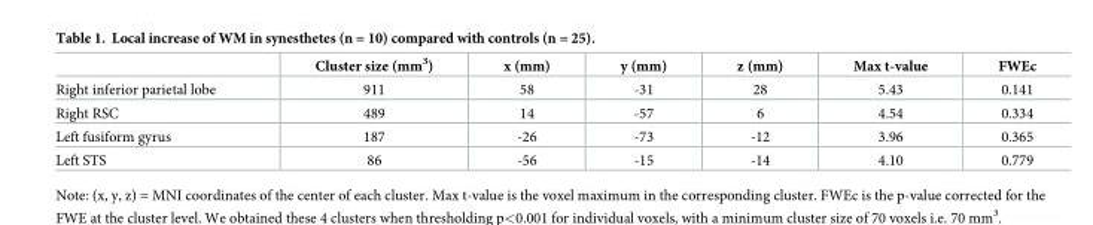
<table><thead><tr><td></td><td>Cluster size (mm<sup>3</sup>)</td><td>x (mm)</td><td>y (mm)</td><td>z (mm)</td><td>Max t-value</td><td>FWEc</td></tr></thead><tbody><tr><td>Right inferior parietal lobe</td><td>911</td><td>58</td><td>-31</td><td>28</td><td>5.43</td><td>0.141</td></tr><tr><td>Right RSC</td><td>489</td><td>14</td><td>-57</td><td>6</td><td>4.54</td><td>0.334</td></tr><tr><td>Left fusiform gyrus</td><td>187</td><td>-26</td><td>-73</td><td>-12</td><td>3.96</td><td>0.365</td></tr><tr><td>Left STS</td><td>86</td><td>-56</td><td>-15</td><td>-14</td><td>4.10</td><td>0.779</td></tr></tbody></table>